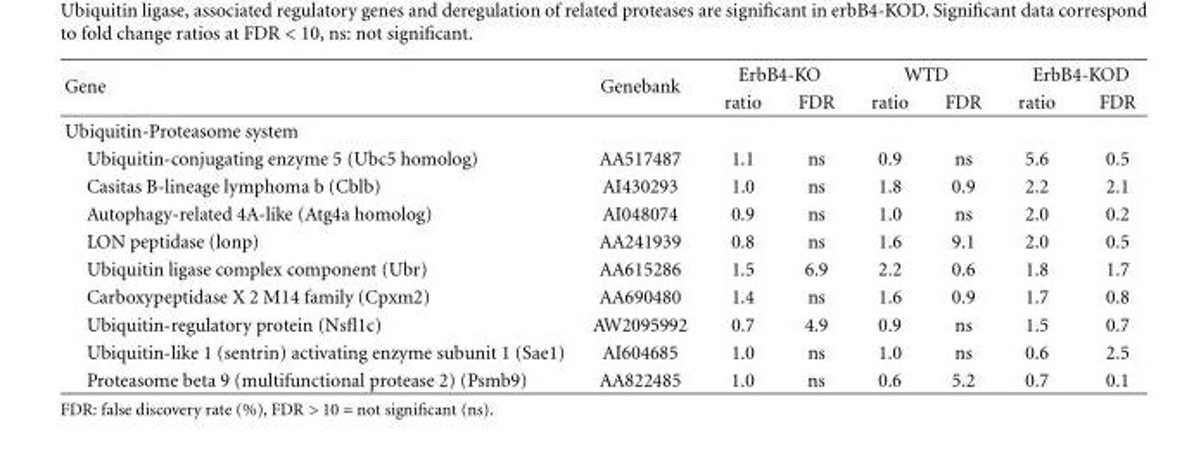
<table><thead><tr><td rowspan="2">Gene</td><td rowspan="2">Genebank</td><td colspan="2">ErbB4-KO</td><td colspan="2">WTD</td><td colspan="2">ErbB4-KOD</td></tr><tr><td>ratio</td><td>FDR</td><td>ratio</td><td>FDR</td><td>ratio</td><td>FDR</td></tr></thead><tbody><tr><td colspan="8">Ubiquitin-Proteasome system</td></tr><tr><td>Ubiquitin-conjugating enzyme 5 (Ubc5 homolog)</td><td>AA517487</td><td>1.1</td><td>ns</td><td>0.9</td><td>ns</td><td>5.6</td><td>0.5</td></tr><tr><td>Casitas B-lineage lymphoma b (Cblb)</td><td>AI430293</td><td>1.0</td><td>ns</td><td>1.8</td><td>0.9</td><td>2.2</td><td>2.1</td></tr><tr><td>Autophagy-related 4A-like (Atg4a homolog)</td><td>AI048074</td><td>0.9</td><td>ns</td><td>1.0</td><td>ns</td><td>2.0</td><td>0.2</td></tr><tr><td>LON peptidase (lonp)</td><td>AA241939</td><td>0.8</td><td>ns</td><td>1.6</td><td>9.1</td><td>2.0</td><td>0.5</td></tr><tr><td>Ubiquitin ligase complex component (Ubr)</td><td>AA615286</td><td>1.5</td><td>6.9</td><td>2.2</td><td>0.6</td><td>1.8</td><td>1.7</td></tr><tr><td>Carboxypeptidase X 2 M14 family (Cpxm2)</td><td>AA690480</td><td>1.4</td><td>ns</td><td>1.6</td><td>0.9</td><td>1.7</td><td>0.8</td></tr><tr><td>Ubiquitin-regulatory protein (Nsfl1c)</td><td>AW2095992</td><td>0.7</td><td>4.9</td><td>0.9</td><td>ns</td><td>1.5</td><td>0.7</td></tr><tr><td>Ubiquitin-like 1 (sentrin) activating enzyme subunit 1 (Sae1)</td><td>AI604685</td><td>1.0</td><td>ns</td><td>1.0</td><td>ns</td><td>0.6</td><td>2.5</td></tr><tr><td>Proteasome beta 9 (multifunctional protease 2) (Psmb9)</td><td>AA822485</td><td>1.0</td><td>ns</td><td>0.6</td><td>5.2</td><td>0.7</td><td>0.1</td></tr></tbody></table>